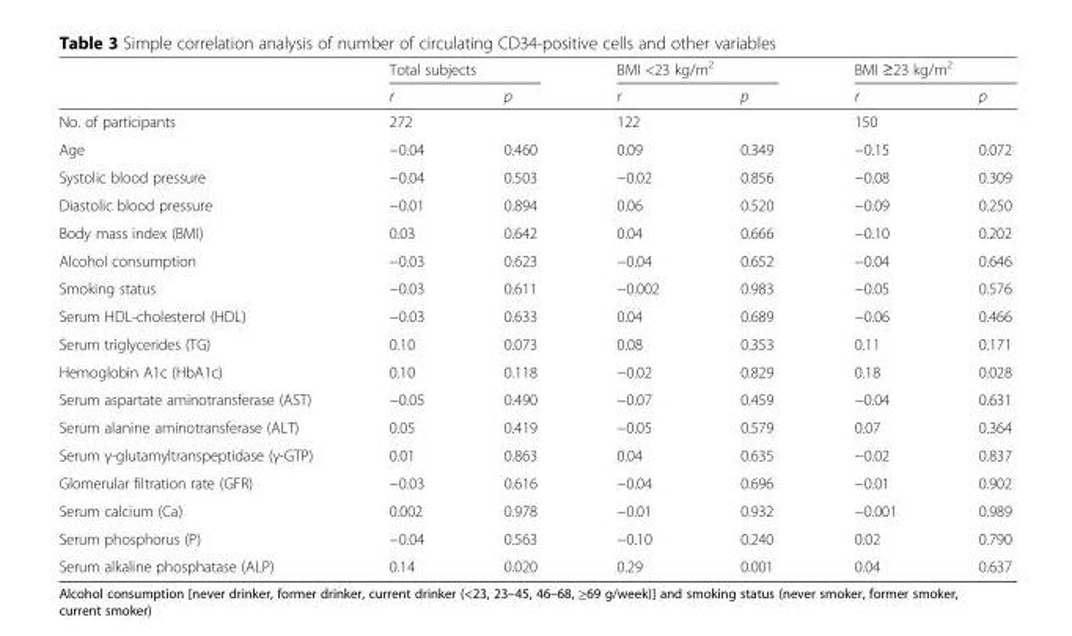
<table><thead><tr><td rowspan="2"></td><td colspan="2">Total subjects</td><td colspan="2">BMI &lt;23 kg/m<sup>2</sup></td><td colspan="2">BMI ≥23 kg/m<sup>2</sup></td></tr><tr><td>r</td><td>p</td><td>r</td><td>p</td><td>r</td><td>p</td></tr></thead><tbody><tr><td>No. of participants</td><td colspan="2">272</td><td colspan="2">122</td><td colspan="2">150</td></tr><tr><td>Age</td><td>−0.04</td><td>0.460</td><td>0.09</td><td>0.349</td><td>−0.15</td><td>0.072</td></tr><tr><td>Systolic blood pressure</td><td>−0.04</td><td>0.503</td><td>−0.02</td><td>0.856</td><td>−0.08</td><td>0.309</td></tr><tr><td>Diastolic blood pressure</td><td>−0.01</td><td>0.894</td><td>0.06</td><td>0.520</td><td>−0.09</td><td>0.250</td></tr><tr><td>Body mass index (BMI)</td><td>0.03</td><td>0.642</td><td>0.04</td><td>0.666</td><td>−0.10</td><td>0.202</td></tr><tr><td>Alcohol consumption</td><td>−0.03</td><td>0.623</td><td>−0.04</td><td>0.652</td><td>−0.04</td><td>0.646</td></tr><tr><td>Smoking status</td><td>−0.03</td><td>0.611</td><td>−0.002</td><td>0.983</td><td>−0.05</td><td>0.576</td></tr><tr><td>Serum HDL-cholesterol (HDL)</td><td>−0.03</td><td>0.633</td><td>0.04</td><td>0.689</td><td>−0.06</td><td>0.466</td></tr><tr><td>Serum triglycerides (TG)</td><td>0.10</td><td>0.073</td><td>0.08</td><td>0.353</td><td>0.11</td><td>0.171</td></tr><tr><td>Hemoglobin A1c (HbA1c)</td><td>0.10</td><td>0.118</td><td>−0.02</td><td>0.829</td><td>0.18</td><td>0.028</td></tr><tr><td>Serum aspartate aminotransferase (AST)</td><td>−0.05</td><td>0.490</td><td>−0.07</td><td>0.459</td><td>−0.04</td><td>0.631</td></tr><tr><td>Serum alanine aminotransferase (ALT)</td><td>0.05</td><td>0.419</td><td>−0.05</td><td>0.579</td><td>0.07</td><td>0.364</td></tr><tr><td>Serum γ-glutamyltranspeptidase (γ-GTP)</td><td>0.01</td><td>0.863</td><td>0.04</td><td>0.635</td><td>−0.02</td><td>0.837</td></tr><tr><td>Glomerular filtration rate (GFR)</td><td>−0.03</td><td>0.616</td><td>−0.04</td><td>0.696</td><td>−0.01</td><td>0.902</td></tr><tr><td>Serum calcium (Ca)</td><td>0.002</td><td>0.978</td><td>−0.01</td><td>0.932</td><td>−0.001</td><td>0.989</td></tr><tr><td>Serum phosphorus (P)</td><td>−0.04</td><td>0.563</td><td>−0.10</td><td>0.240</td><td>0.02</td><td>0.790</td></tr><tr><td>Serum alkaline phosphatase (ALP)</td><td>0.14</td><td>0.020</td><td>0.29</td><td>0.001</td><td>0.04</td><td>0.637</td></tr></tbody></table>